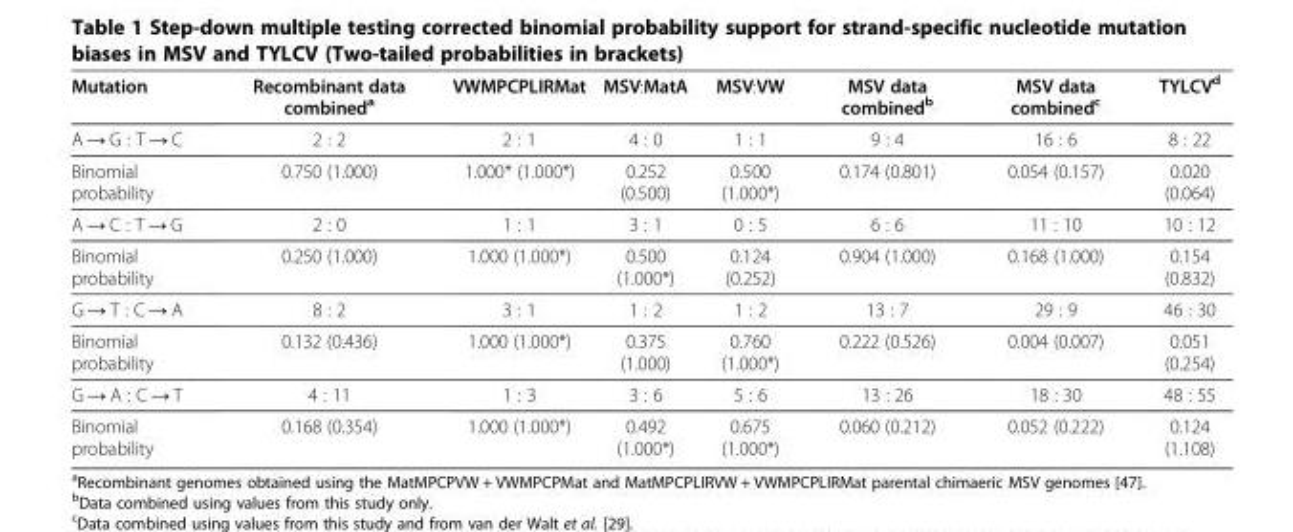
<table><thead><tr><td>Mutation</td><td>Recombinant data combined<sup>a</sup></td><td>VWMPCPLIRMat</td><td>MSV:MatA</td><td>MSV:VW</td><td>MSV data combined<sup>b</sup></td><td>MSV data combined<sup>c</sup></td><td>TYLCV<sup>d</sup></td></tr></thead><tbody><tr><td>A → G : T → C</td><td>2 : 2</td><td>2 : 1</td><td>4 : 0</td><td>1 : 1</td><td>9 : 4</td><td>16 : 6</td><td>8 : 22</td></tr><tr><td>Binomial probability</td><td>0.750 (1.000)</td><td>1.000* (1.000*)</td><td>0.252 (0.500)</td><td>0.500 (1.000*)</td><td>0.174 (0.801)</td><td>0.054 (0.157)</td><td>0.020 (0.064)</td></tr><tr><td>A → C : T → G</td><td>2 : 0</td><td>1 : 1</td><td>3 : 1</td><td>0 : 5</td><td>6 : 6</td><td>11 : 10</td><td>10 : 12</td></tr><tr><td>Binomial probability</td><td>0.250 (1.000)</td><td>1.000 (1.000*)</td><td>0.500 (1.000*)</td><td>0.124 (0.252)</td><td>0.904 (1.000)</td><td>0.168 (1.000)</td><td>0.154 (0.832)</td></tr><tr><td>G → T : C → A</td><td>8 : 2</td><td>3 : 1</td><td>1 : 2</td><td>1 : 2</td><td>13 : 7</td><td>29 : 9</td><td>46 : 30</td></tr><tr><td>Binomial probability</td><td>0.132 (0.436)</td><td>1.000 (1.000*)</td><td>0.375 (1.000)</td><td>0.760 (1.000*)</td><td>0.222 (0.526)</td><td>0.004 (0.007)</td><td>0.051 (0.254)</td></tr><tr><td>G → A : C → T</td><td>4 : 11</td><td>1 : 3</td><td>3 : 6</td><td>5 : 6</td><td>13 : 26</td><td>18 : 30</td><td>48 : 55</td></tr><tr><td>Binomial probability</td><td>0.168 (0.354)</td><td>1.000 (1.000*)</td><td>0.492 (1.000*)</td><td>0.675 (1.000*)</td><td>0.060 (0.212)</td><td>0.052 (0.222)</td><td>0.124 (1.108)</td></tr></tbody></table>